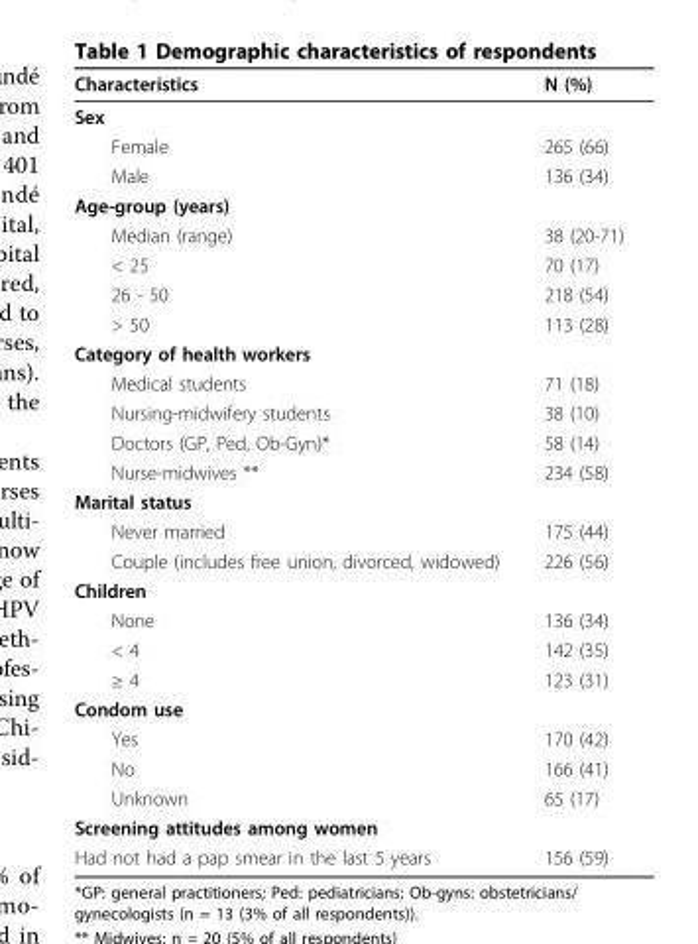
<table><thead><tr><td>Characteristics</td><td>N (%)</td></tr></thead><tbody><tr><td colspan="2">Sex</td></tr><tr><td>Female</td><td>265 (66)</td></tr><tr><td>Male</td><td>136 (34)</td></tr><tr><td colspan="2">Age-group (years)</td></tr><tr><td>Median (range)</td><td>38 (20-71)</td></tr><tr><td>&lt; 25</td><td>70 (17)</td></tr><tr><td>26 - 50</td><td>218 (54)</td></tr><tr><td>&gt; 50</td><td>113 (28)</td></tr><tr><td colspan="2">Category of health workers</td></tr><tr><td>Medical students</td><td>71 (18)</td></tr><tr><td>Nursing-midwifery students</td><td>38 (10)</td></tr><tr><td>Doctors (GP, Ped, Ob-Gyn)*</td><td>58 (14)</td></tr><tr><td>Nurse-midwives **</td><td>234 (58)</td></tr><tr><td colspan="2">Marital status</td></tr><tr><td>Never married</td><td>175 (44)</td></tr><tr><td>Couple (includes free union, divorced, widowed)</td><td>226 (56)</td></tr><tr><td colspan="2">Children</td></tr><tr><td>None</td><td>136 (34)</td></tr><tr><td>&lt; 4</td><td>142 (35)</td></tr><tr><td>≥ 4</td><td>123 (31)</td></tr><tr><td colspan="2">Condom use</td></tr><tr><td>Yes</td><td>170 (42)</td></tr><tr><td>No</td><td>166 (41)</td></tr><tr><td>Unknown</td><td>65 (17)</td></tr><tr><td colspan="2">Screening attitudes among women</td></tr><tr><td>Had not had a pap smear in the last 5 years</td><td>156 (59)</td></tr></tbody></table>